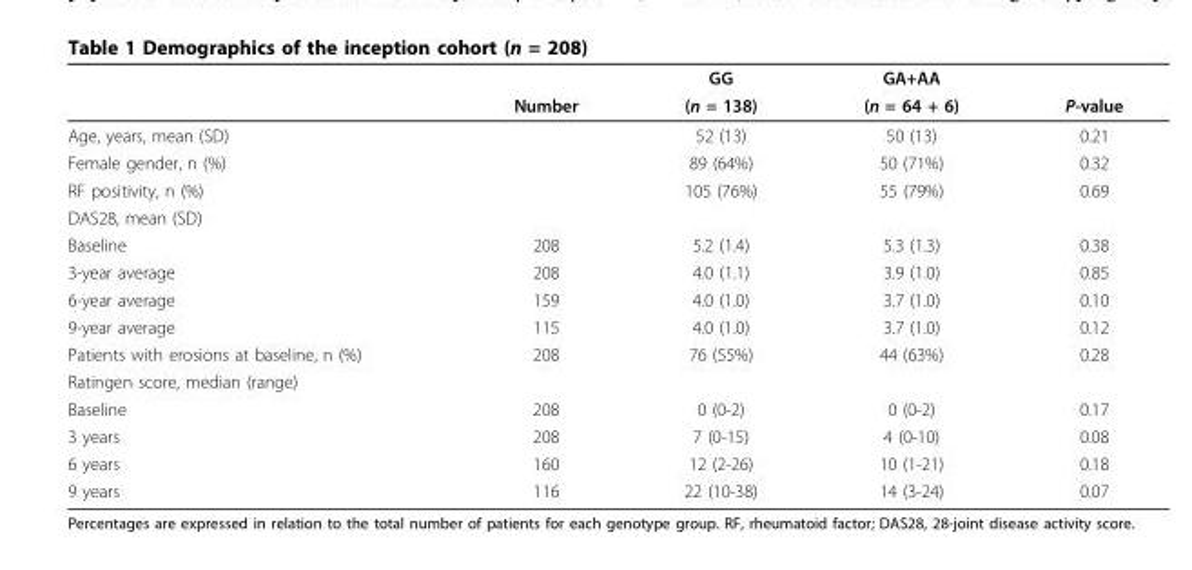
<table><thead><tr><td rowspan="2"></td><td rowspan="2">Number</td><td rowspan="2">GG (n = 138)</td><td rowspan="2">GA+AA (n = 64 + 6)</td><td rowspan="2">P-value</td></tr><tr></tr></thead><tbody><tr><td>Age, years, mean (SD)</td><td></td><td>52 (13)</td><td>50 (13)</td><td>0.21</td></tr><tr><td>Female gender, n (%)</td><td></td><td>89 (64%)</td><td>50 (71%)</td><td>0.32</td></tr><tr><td>RF positivity, n (%)</td><td></td><td>105 (76%)</td><td>55 (79%)</td><td>0.69</td></tr><tr><td colspan="5">DAS28, mean (SD)</td></tr><tr><td>Baseline</td><td>208</td><td>5.2 (1.4)</td><td>5.3 (1.3)</td><td>0.38</td></tr><tr><td>3-year average</td><td>208</td><td>4.0 (1.1)</td><td>3.9 (1.0)</td><td>0.85</td></tr><tr><td>6-year average</td><td>159</td><td>4.0 (1.0)</td><td>3.7 (1.0)</td><td>0.10</td></tr><tr><td>9-year average</td><td>115</td><td>4.0 (1.0)</td><td>3.7 (1.0)</td><td>0.12</td></tr><tr><td>Patients with erosions at baseline, n (%)</td><td>208</td><td>76 (55%)</td><td>44 (63%)</td><td>0.28</td></tr><tr><td colspan="5">Ratingen score, median (range)</td></tr><tr><td>Baseline</td><td>208</td><td>0 (0-2)</td><td>0 (0-2)</td><td>0.17</td></tr><tr><td>3 years</td><td>208</td><td>7 (0-15)</td><td>4 (0-10)</td><td>0.08</td></tr><tr><td>6 years</td><td>160</td><td>12 (2-26)</td><td>10 (1-21)</td><td>0.18</td></tr><tr><td>9 years</td><td>116</td><td>22 (10-38)</td><td>14 (3-24)</td><td>0.07</td></tr></tbody></table>